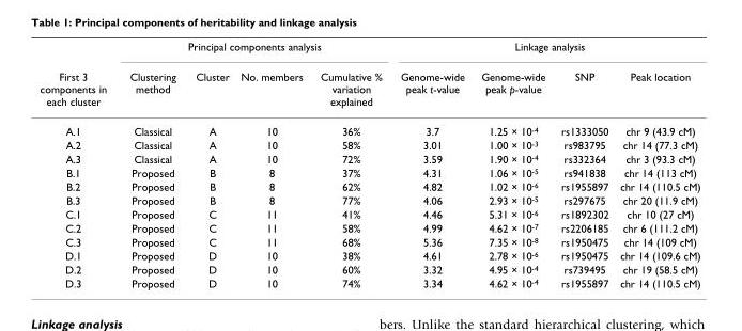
<table><thead><tr><td rowspan="2">First 3 components in each cluster</td><td colspan="4">Principal components analysis</td><td colspan="4">Linkage analysis</td></tr><tr><td>Clustering method</td><td>Cluster</td><td>No. members</td><td>Cumulative % variation explained</td><td>Genome-wide peak t-value</td><td>Genome-wide peak p-value</td><td>SNP</td><td>Peak location</td></tr></thead><tbody><tr><td>A.1</td><td>Classical</td><td>A</td><td>10</td><td>36%</td><td>3.7</td><td>1.25 × 10<sup>-4</sup></td><td>rs1333050</td><td>chr 9 (43.9 cM)</td></tr><tr><td>A.2</td><td>Classical</td><td>A</td><td>10</td><td>58%</td><td>3.01</td><td>1.00 × 10<sup>-3</sup></td><td>rs983795</td><td>chr 14 (77.3 cM)</td></tr><tr><td>A.3</td><td>Classical</td><td>A</td><td>10</td><td>72%</td><td>3.59</td><td>1.90 × 10<sup>-4</sup></td><td>rs332364</td><td>chr 3 (93.3 cM)</td></tr><tr><td>B.1</td><td>Proposed</td><td>B</td><td>8</td><td>37%</td><td>4.31</td><td>1.06 × 10<sup>-5</sup></td><td>rs941838</td><td>chr 14 (113 cM)</td></tr><tr><td>B.2</td><td>Proposed</td><td>B</td><td>8</td><td>62%</td><td>4.82</td><td>1.02 × 10<sup>-6</sup></td><td>rs1955897</td><td>chr 14 (110.5 cM)</td></tr><tr><td>B.3</td><td>Proposed</td><td>B</td><td>8</td><td>77%</td><td>4.06</td><td>2.93 × 10<sup>-5</sup></td><td>rs297675</td><td>chr 20 (11.9 cM)</td></tr><tr><td>C.1</td><td>Proposed</td><td>C</td><td>11</td><td>41%</td><td>4.46</td><td>5.31 × 10<sup>-6</sup></td><td>rs1892302</td><td>chr 10 (27 cM)</td></tr><tr><td>C.2</td><td>Proposed</td><td>C</td><td>11</td><td>58%</td><td>4.99</td><td>4.62 × 10<sup>-7</sup></td><td>rs2206185</td><td>chr 6 (111.2 cM)</td></tr><tr><td>C.3</td><td>Proposed</td><td>C</td><td>11</td><td>68%</td><td>5.36</td><td>7.35 × 10<sup>-8</sup></td><td>rs1950475</td><td>chr 14 (109 cM)</td></tr><tr><td>D.1</td><td>Proposed</td><td>D</td><td>10</td><td>38%</td><td>4.61</td><td>2.78 × 10<sup>-6</sup></td><td>rs1950475</td><td>chr 14 (109.6 cM)</td></tr><tr><td>D.2</td><td>Proposed</td><td>D</td><td>10</td><td>60%</td><td>3.32</td><td>4.95 × 10<sup>-4</sup></td><td>rs739495</td><td>chr 19 (58.5 cM)</td></tr><tr><td>D.3</td><td>Proposed</td><td>D</td><td>10</td><td>74%</td><td>3.34</td><td>4.62 × 10<sup>-4</sup></td><td>rs1955897</td><td>chr 14 (110.5 cM)</td></tr></tbody></table>